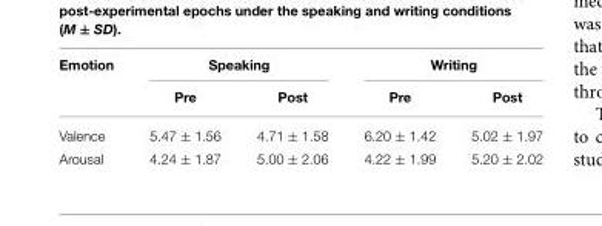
<table><thead><tr><td rowspan="2">Emotion</td><td colspan="2">Speaking</td><td colspan="2">Writing</td></tr><tr><td>Pre</td><td>Post</td><td>Pre</td><td>Post</td></tr></thead><tbody><tr><td>Valence</td><td>5.47 ± 1.56</td><td>4.71 ± 1.58</td><td>6.20 ± 1.42</td><td>5.02 ± 1.97</td></tr><tr><td>Arousal</td><td>4.24 ± 1.87</td><td>5.00 ± 2.06</td><td>4.22 ± 1.99</td><td>5.20 ± 2.02</td></tr></tbody></table>